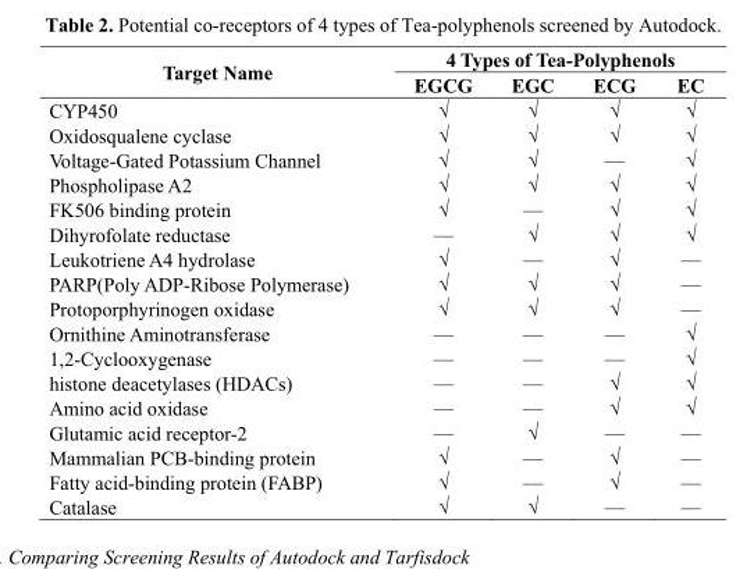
<table><thead><tr><td rowspan="2">Target Name</td><td colspan="4">4 Types of Tea-Polyphenols</td></tr><tr><td>EGCG</td><td>EGC</td><td>ECG</td><td>EC</td></tr></thead><tbody><tr><td>CYP450</td><td>√</td><td>√</td><td>√</td><td>√</td></tr><tr><td>Oxidosqualene cyclase</td><td>√</td><td>√</td><td>√</td><td>√</td></tr><tr><td>Voltage-Gated Potassium Channel</td><td>√</td><td>√</td><td>—</td><td>√</td></tr><tr><td>Phospholipase A2</td><td>√</td><td>√</td><td>√</td><td>√</td></tr><tr><td>FK506 binding protein</td><td>√</td><td>—</td><td>√</td><td>√</td></tr><tr><td>Dihyrofolate reductase</td><td>—</td><td>√</td><td>√</td><td>√</td></tr><tr><td>Leukotriene A4 hydrolase</td><td>√</td><td>—</td><td>√</td><td>—</td></tr><tr><td>PARP(Poly ADP-Ribose Polymerase)</td><td>√</td><td>√</td><td>√</td><td>—</td></tr><tr><td>Protoporphyrinogen oxidase</td><td>√</td><td>√</td><td>√</td><td>—</td></tr><tr><td>Ornithine Aminotransferase</td><td>—</td><td>—</td><td>—</td><td>√</td></tr><tr><td>1,2-Cyclooxygenase</td><td>—</td><td>—</td><td>—</td><td>√</td></tr><tr><td>histone deacetylases (HDACs)</td><td>—</td><td>—</td><td>√</td><td>√</td></tr><tr><td>Amino acid oxidase</td><td>—</td><td>—</td><td>√</td><td>√</td></tr><tr><td>Glutamic acid receptor-2</td><td>—</td><td>√</td><td>—</td><td>—</td></tr><tr><td>Mammalian PCB-binding protein</td><td>√</td><td>—</td><td>√</td><td>—</td></tr><tr><td>Fatty acid-binding protein (FABP)</td><td>√</td><td>—</td><td>√</td><td>—</td></tr><tr><td>Catalase</td><td>√</td><td>√</td><td>—</td><td>—</td></tr></tbody></table>